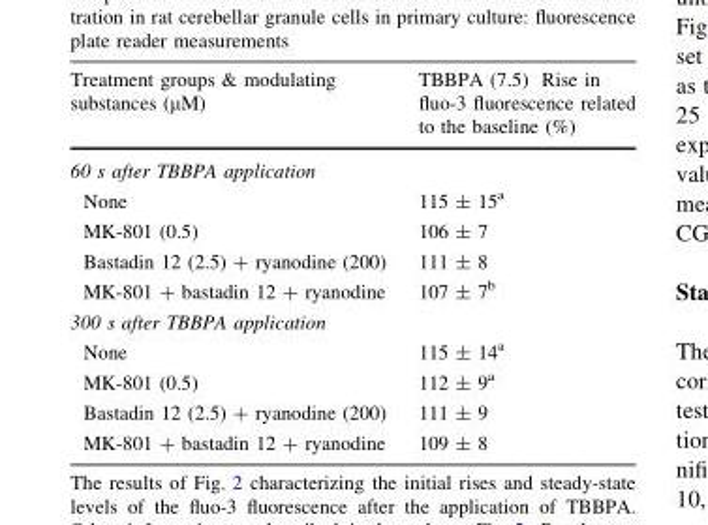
<table><thead><tr><td>Treatment groups &amp; modulating substances (μM)</td><td>TBBPA (7.5) Rise in fluo-3 fluorescence related to the baseline (%)</td></tr></thead><tbody><tr><td colspan="2">60 s after TBBPA application</td></tr><tr><td>None</td><td>115 ± 15<sup>a</sup></td></tr><tr><td>MK-801 (0.5)</td><td>106 ± 7</td></tr><tr><td>Bastadin 12 (2.5) + ryanodine (200)</td><td>111 ± 8</td></tr><tr><td>MK-801 + bastadin 12 + ryanodine</td><td>107 ± 7<sup>b</sup></td></tr><tr><td colspan="2">300 s after TBBPA application</td></tr><tr><td>None</td><td>115 ± 14<sup>a</sup></td></tr><tr><td>MK-801 (0.5)</td><td>112 ± 9<sup>a</sup></td></tr><tr><td>Bastadin 12 (2.5) + ryanodine (200)</td><td>111 ± 9</td></tr><tr><td>MK-801 + bastadin 12 + ryanodine</td><td>109 ± 8</td></tr></tbody></table>